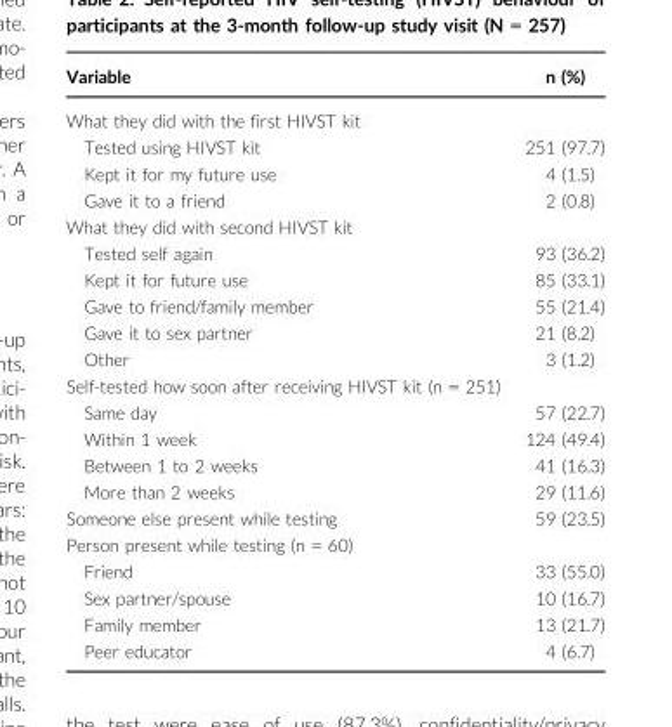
<table><thead><tr><td>Variable</td><td>n (%)</td></tr></thead><tbody><tr><td colspan="2">What they did with the first HIVST kit</td></tr><tr><td>Tested using HIVST kit</td><td>251 (97.7)</td></tr><tr><td>Kept it for my future use</td><td>4 (1.5)</td></tr><tr><td>Gave it to a friend</td><td>2 (0.8)</td></tr><tr><td colspan="2">What they did with second HIVST kit</td></tr><tr><td>Tested self again</td><td>93 (36.2)</td></tr><tr><td>Kept it for future use</td><td>85 (33.1)</td></tr><tr><td>Gave to friend/family member</td><td>55 (21.4)</td></tr><tr><td>Gave it to sex partner</td><td>21 (8.2)</td></tr><tr><td>Other</td><td>3 (1.2)</td></tr><tr><td colspan="2">Self-tested how soon after receiving HIVST kit (n = 251)</td></tr><tr><td>Same day</td><td>57 (22.7)</td></tr><tr><td>Within 1 week</td><td>124 (49.4)</td></tr><tr><td>Between 1 to 2 weeks</td><td>41 (16.3)</td></tr><tr><td>More than 2 weeks</td><td>29 (11.6)</td></tr><tr><td>Someone else present while testing</td><td>59 (23.5)</td></tr><tr><td colspan="2">Person present while testing (n = 60)</td></tr><tr><td>Friend</td><td>33 (55.0)</td></tr><tr><td>Sex partner/spouse</td><td>10 (16.7)</td></tr><tr><td>Family member</td><td>13 (21.7)</td></tr><tr><td>Peer educator</td><td>4 (6.7)</td></tr></tbody></table>